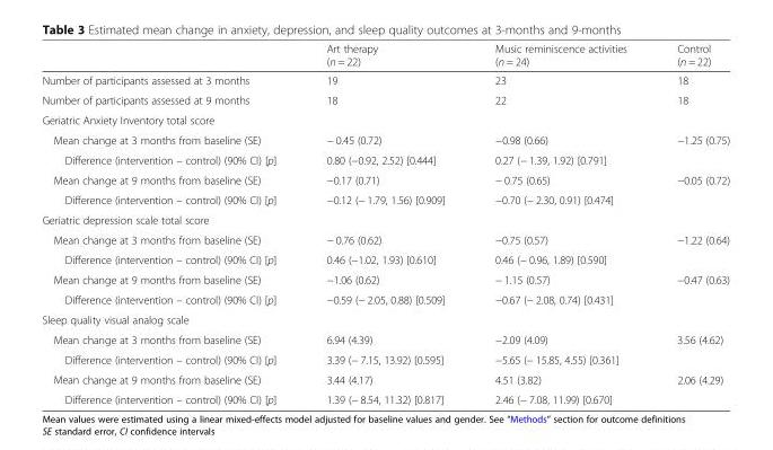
<table><thead><tr><td></td><td>Art therapy (n = 22)</td><td>Music reminiscence activities (n = 24)</td><td>Control (n = 22)</td></tr></thead><tbody><tr><td>Number of participants assessed at 3 months</td><td>19</td><td>23</td><td>18</td></tr><tr><td>Number of participants assessed at 9 months</td><td>18</td><td>22</td><td>18</td></tr><tr><td colspan="4">Geriatric Anxiety Inventory total score</td></tr><tr><td>Mean change at 3 months from baseline (SE)</td><td>− 0.45 (0.72)</td><td>−0.98 (0.66)</td><td>−1.25 (0.75)</td></tr><tr><td>Difference (intervention – control) (90% CI) [p]</td><td>0.80 (−0.92, 2.52) [0.444]</td><td>0.27 (− 1.39, 1.92) [0.791]</td><td></td></tr><tr><td>Mean change at 9 months from baseline (SE)</td><td>−0.17 (0.71)</td><td>− 0.75 (0.65)</td><td>−0.05 (0.72)</td></tr><tr><td>Difference (intervention – control) (90% CI) [p]</td><td>−0.12 (− 1.79, 1.56) [0.909]</td><td>−0.70 (− 2.30, 0.91) [0.474]</td><td></td></tr><tr><td colspan="4">Geriatric depression scale total score</td></tr><tr><td>Mean change at 3 months from baseline (SE)</td><td>− 0.76 (0.62)</td><td>−0.75 (0.57)</td><td>−1.22 (0.64)</td></tr><tr><td>Difference (intervention – control) (90% CI) [p]</td><td>0.46 (−1.02, 1.93) [0.610]</td><td>0.46 (− 0.96, 1.89) [0.590]</td><td></td></tr><tr><td>Mean change at 9 months from baseline (SE)</td><td>−1.06 (0.62)</td><td>− 1.15 (0.57)</td><td>−0.47 (0.63)</td></tr><tr><td>Difference (intervention – control) (90% CI) [p]</td><td>−0.59 (− 2.05, 0.88) [0.509]</td><td>−0.67 (− 2.08, 0.74) [0.431]</td><td></td></tr><tr><td colspan="4">Sleep quality visual analog scale</td></tr><tr><td>Mean change at 3 months from baseline (SE)</td><td>6.94 (4.39)</td><td>−2.09 (4.09)</td><td>3.56 (4.62)</td></tr><tr><td>Difference (intervention – control) (90% CI) [p]</td><td>3.39 (− 7.15, 13.92) [0.595]</td><td>−5.65 (− 15.85, 4.55) [0.361]</td><td></td></tr><tr><td>Mean change at 9 months from baseline (SE)</td><td>3.44 (4.17)</td><td>4.51 (3.82)</td><td>2.06 (4.29)</td></tr><tr><td>Difference (intervention – control) (90% CI) [p]</td><td>1.39 (− 8.54, 11.32) [0.817]</td><td>2.46 (− 7.08, 11.99) [0.670]</td><td></td></tr></tbody></table>